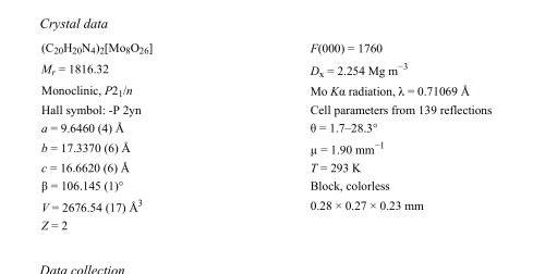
<table><tbody><tr><td>(C<sub>20</sub>H<sub>20</sub>N<sub>4</sub>)<sub>2</sub>[Mo<sub>8</sub>O<sub>26</sub>]</td><td>F(000) = 1760</td></tr><tr><td>M<sub>r</sub> = 1816.32</td><td>D<sub>x</sub> = 2.254 Mg m<sup>−3</sup></td></tr><tr><td>Monoclinic, P2<sub>1</sub>/n</td><td>Mo Kα radiation, λ = 0.71069 Å</td></tr><tr><td>Hall symbol: -P 2yn</td><td>Cell parameters from 139 reflections</td></tr><tr><td>a = 9.6460 (4) Å</td><td>θ = 1.7–28.3°</td></tr><tr><td>b = 17.3370 (6) Å</td><td>µ = 1.90 mm<sup>−1</sup></td></tr><tr><td>c = 16.6620 (6) Å</td><td>T = 293 K</td></tr><tr><td>β = 106.145 (1)°</td><td>Block, colorless</td></tr><tr><td>V = 2676.54 (17) Å<sup>3</sup></td><td>0.28 × 0.27 × 0.23 mm</td></tr><tr><td>Z = 2</td><td></td></tr></tbody></table>